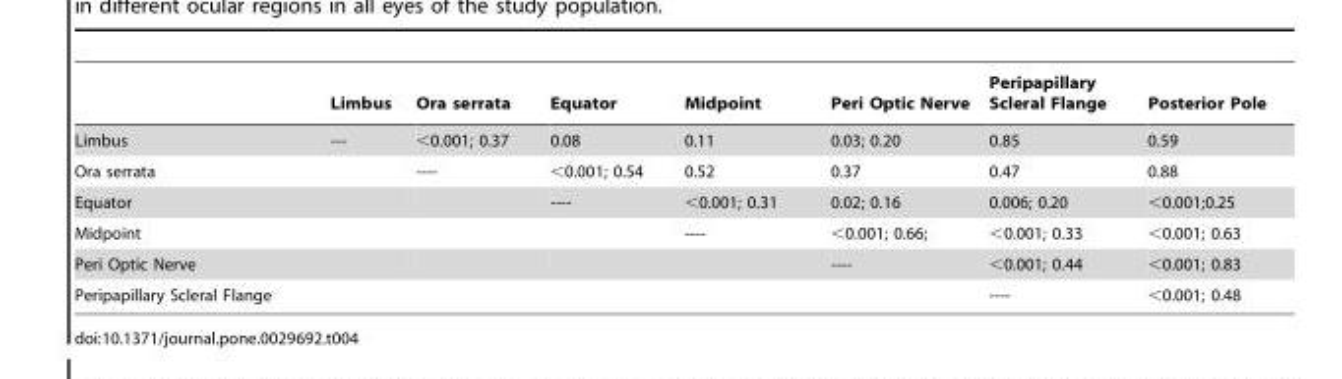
<table><thead><tr><td></td><td>Limbus</td><td>Ora serrata</td><td>Equator</td><td>Midpoint</td><td>Peri Optic Nerve</td><td>Peripapillary Scleral Flange</td><td>Posterior Pole</td></tr></thead><tbody><tr><td>Limbus</td><td>---</td><td>&lt;0.001; 0.37</td><td>0.08</td><td>0.11</td><td>0.03; 0.20</td><td>0.85</td><td>0.59</td></tr><tr><td>Ora serrata</td><td></td><td>----</td><td>&lt;0.001; 0.54</td><td>0.52</td><td>0.37</td><td>0.47</td><td>0.88</td></tr><tr><td>Equator</td><td></td><td></td><td>----</td><td>&lt;0.001; 0.31</td><td>0.02; 0.16</td><td>0.006; 0.20</td><td>&lt;0.001;0.25</td></tr><tr><td>Midpoint</td><td></td><td></td><td></td><td>----</td><td>&lt;0.001; 0.66;</td><td>&lt;0.001; 0.33</td><td>&lt;0.001; 0.63</td></tr><tr><td>Peri Optic Nerve</td><td></td><td></td><td></td><td></td><td>----</td><td>&lt;0.001; 0.44</td><td>&lt;0.001; 0.83</td></tr><tr><td>Peripapillary Scleral Flange</td><td></td><td></td><td></td><td></td><td></td><td>----</td><td>&lt;0.001; 0.48</td></tr></tbody></table>